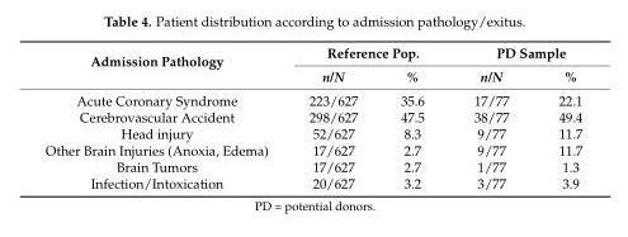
<table><thead><tr><td rowspan="2">Admission Pathology</td><td colspan="2">Reference Pop.</td><td colspan="2">PD Sample</td></tr><tr><td>n/N</td><td>%</td><td>n/N</td><td>%</td></tr></thead><tbody><tr><td>Acute Coronary Syndrome</td><td>223/627</td><td>35.6</td><td>17/77</td><td>22.1</td></tr><tr><td>Cerebrovascular Accident</td><td>298/627</td><td>47.5</td><td>38/77</td><td>49.4</td></tr><tr><td>Head injury</td><td>52/627</td><td>8.3</td><td>9/77</td><td>11.7</td></tr><tr><td>Other Brain Injuries (Anoxia, Edema)</td><td>17/627</td><td>2.7</td><td>9/77</td><td>11.7</td></tr><tr><td>Brain Tumors</td><td>17/627</td><td>2.7</td><td>1/77</td><td>1.3</td></tr><tr><td>Infection/Intoxication</td><td>20/627</td><td>3.2</td><td>3/77</td><td>3.9</td></tr></tbody></table>